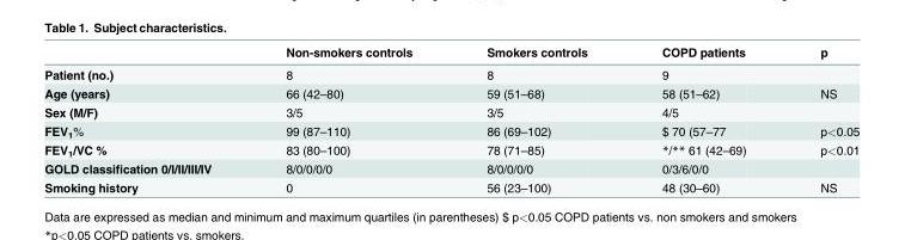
<table><thead><tr><td></td><td>Non-smokers controls</td><td>Smokers controls</td><td>COPD patients</td><td>p</td></tr></thead><tbody><tr><td>Patient (no.)</td><td>8</td><td>8</td><td>9</td><td></td></tr><tr><td>Age (years)</td><td>66 (42–80)</td><td>59 (51–68)</td><td>58 (51–62)</td><td>NS</td></tr><tr><td>Sex (M/F)</td><td>3/5</td><td>3/5</td><td>4/5</td><td></td></tr><tr><td>FEV<sub>1</sub>%</td><td>99 (87–110)</td><td>86 (69–102)</td><td>$ 70 (57–77</td><td>p&lt;0.05</td></tr><tr><td>FEV<sub>1</sub>/VC %</td><td>83 (80–100)</td><td>78 (71–85)</td><td>*/** 61 (42–69)</td><td>p&lt;0.01</td></tr><tr><td>GOLD classification 0/I/II/III/IV</td><td>8/0/0/0/0</td><td>8/0/0/0/0</td><td>0/3/6/0/0</td><td></td></tr><tr><td>Smoking history</td><td>0</td><td>56 (23–100)</td><td>48 (30–60)</td><td>NS</td></tr></tbody></table>